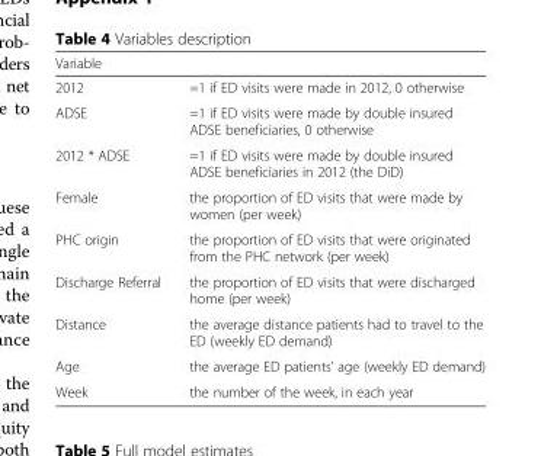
<table><thead><tr><td>Variable</td><td></td></tr></thead><tbody><tr><td>2012</td><td>=1 if ED visits were made in 2012, 0 otherwise</td></tr><tr><td>ADSE</td><td>=1 if ED visits were made by double insured ADSE beneficiaries, 0 otherwise</td></tr><tr><td>2012 * ADSE</td><td>=1 if ED visits were made by double insured ADSE beneficiaries in 2012 (the DiD)</td></tr><tr><td>Female</td><td>the proportion of ED visits that were made by women (per week)</td></tr><tr><td>PHC origin</td><td>the proportion of ED visits that were originated from the PHC network (per week)</td></tr><tr><td>Discharge Referral</td><td>the proportion of ED visits that were discharged home (per week)</td></tr><tr><td>Distance</td><td>the average distance patients had to travel to the ED (weekly ED demand)</td></tr><tr><td>Age</td><td>the average ED patients’ age (weekly ED demand)</td></tr><tr><td>Week</td><td>the number of the week, in each year</td></tr></tbody></table>